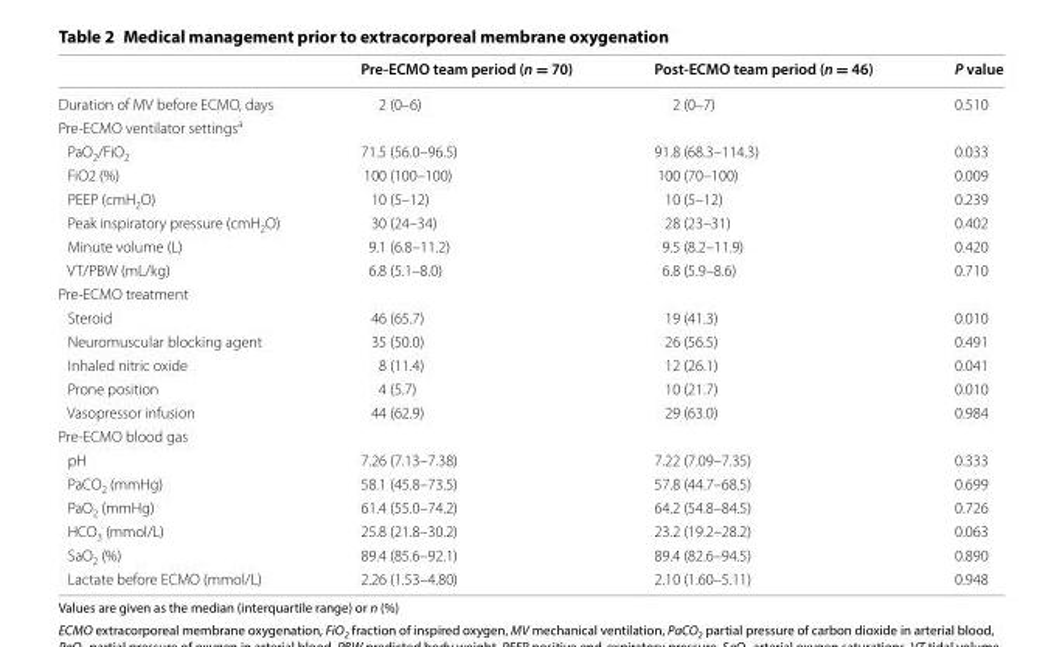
<table><thead><tr><td></td><td>Pre-ECMO team period (n = 70)</td><td>Post-ECMO team period (n = 46)</td><td>P value</td></tr></thead><tbody><tr><td>Duration of MV before ECMO, days</td><td>2 (0–6)</td><td>2 (0–7)</td><td>0.510</td></tr><tr><td colspan="4">Pre-ECMO ventilator settings<sup>a</sup></td></tr><tr><td>PaO<sub>2</sub>/FiO<sub>2</sub></td><td>71.5 (56.0–96.5)</td><td>91.8 (68.3–114.3)</td><td>0.033</td></tr><tr><td>FiO2 (%)</td><td>100 (100–100)</td><td>100 (70–100)</td><td>0.009</td></tr><tr><td>PEEP (cmH<sub>2</sub>O)</td><td>10 (5–12)</td><td>10 (5–12)</td><td>0.239</td></tr><tr><td>Peak inspiratory pressure (cmH<sub>2</sub>O)</td><td>30 (24–34)</td><td>28 (23–31)</td><td>0.402</td></tr><tr><td>Minute volume (L)</td><td>9.1 (6.8–11.2)</td><td>9.5 (8.2–11.9)</td><td>0.420</td></tr><tr><td>VT/PBW (mL/kg)</td><td>6.8 (5.1–8.0)</td><td>6.8 (5.9–8.6)</td><td>0.710</td></tr><tr><td colspan="4">Pre-ECMO treatment</td></tr><tr><td>Steroid</td><td>46 (65.7)</td><td>19 (41.3)</td><td>0.010</td></tr><tr><td>Neuromuscular blocking agent</td><td>35 (50.0)</td><td>26 (56.5)</td><td>0.491</td></tr><tr><td>Inhaled nitric oxide</td><td>8 (11.4)</td><td>12 (26.1)</td><td>0.041</td></tr><tr><td>Prone position</td><td>4 (5.7)</td><td>10 (21.7)</td><td>0.010</td></tr><tr><td>Vasopressor infusion</td><td>44 (62.9)</td><td>29 (63.0)</td><td>0.984</td></tr><tr><td colspan="4">Pre-ECMO blood gas</td></tr><tr><td>pH</td><td>7.26 (7.13–7.38)</td><td>7.22 (7.09–7.35)</td><td>0.333</td></tr><tr><td>PaCO<sub>2</sub> (mmHg)</td><td>58.1 (45.8–73.5)</td><td>57.8 (44.7–68.5)</td><td>0.699</td></tr><tr><td>PaO<sub>2</sub> (mmHg)</td><td>61.4 (55.0–74.2)</td><td>64.2 (54.8–84.5)</td><td>0.726</td></tr><tr><td>HCO<sub>3</sub> (mmol/L)</td><td>25.8 (21.8–30.2)</td><td>23.2 (19.2–28.2)</td><td>0.063</td></tr><tr><td>SaO<sub>2</sub> (%)</td><td>89.4 (85.6–92.1)</td><td>89.4 (82.6–94.5)</td><td>0.890</td></tr><tr><td>Lactate before ECMO (mmol/L)</td><td>2.26 (1.53–4.80)</td><td>2.10 (1.60–5.11)</td><td>0.948</td></tr></tbody></table>